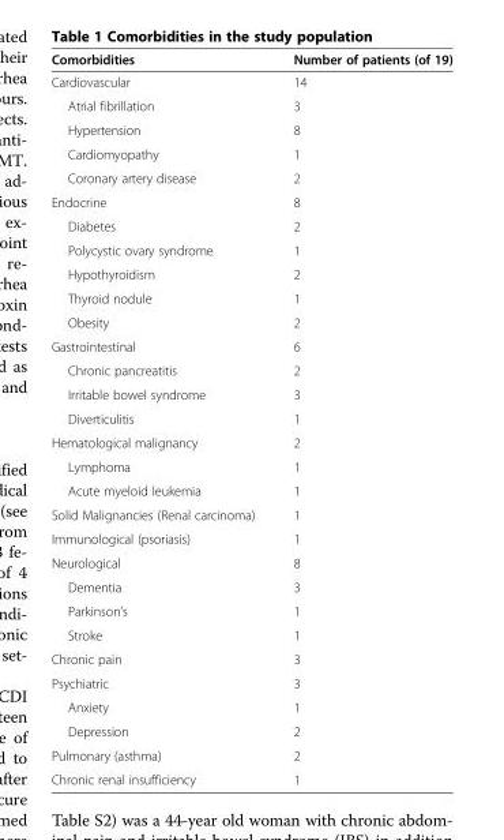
<table><thead><tr><td>Comorbidities</td><td>Number of patients (of 19)</td></tr></thead><tbody><tr><td>Cardiovascular</td><td>14</td></tr><tr><td>Atrial fibrillation</td><td>3</td></tr><tr><td>Hypertension</td><td>8</td></tr><tr><td>Cardiomyopathy</td><td>1</td></tr><tr><td>Coronary artery disease</td><td>2</td></tr><tr><td>Endocrine</td><td>8</td></tr><tr><td>Diabetes</td><td>2</td></tr><tr><td>Polycystic ovary syndrome</td><td>1</td></tr><tr><td>Hypothyroidism</td><td>2</td></tr><tr><td>Thyroid nodule</td><td>1</td></tr><tr><td>Obesity</td><td>2</td></tr><tr><td>Gastrointestinal</td><td>6</td></tr><tr><td>Chronic pancreatitis</td><td>2</td></tr><tr><td>Irritable bowel syndrome</td><td>3</td></tr><tr><td>Diverticulitis</td><td>1</td></tr><tr><td>Hematological malignancy</td><td>2</td></tr><tr><td>Lymphoma</td><td>1</td></tr><tr><td>Acute myeloid leukemia</td><td>1</td></tr><tr><td>Solid Malignancies (Renal carcinoma)</td><td>1</td></tr><tr><td>Immunological (psoriasis)</td><td>1</td></tr><tr><td>Neurological</td><td>8</td></tr><tr><td>Dementia</td><td>3</td></tr><tr><td>Parkinson’s</td><td>1</td></tr><tr><td>Stroke</td><td>1</td></tr><tr><td>Chronic pain</td><td>3</td></tr><tr><td>Psychiatric</td><td>3</td></tr><tr><td>Anxiety</td><td>1</td></tr><tr><td>Depression</td><td>2</td></tr><tr><td>Pulmonary (asthma)</td><td>2</td></tr><tr><td>Chronic renal insufficiency</td><td>1</td></tr></tbody></table>